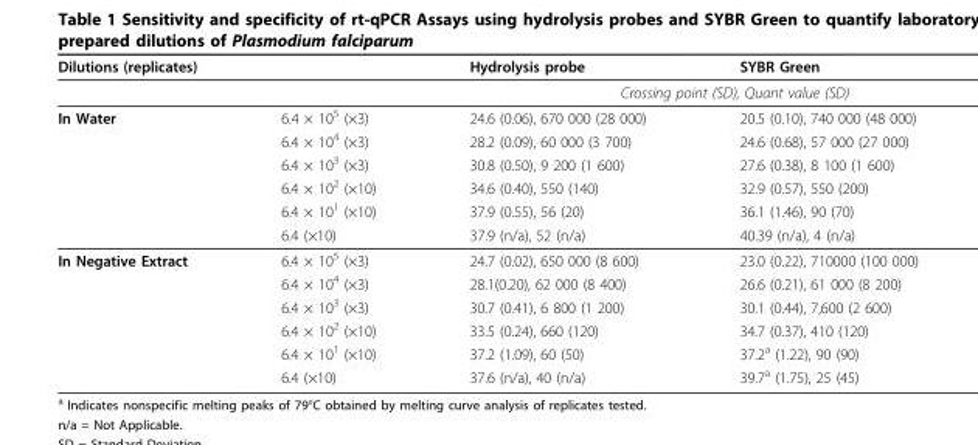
<table><thead><tr><td colspan="2">Dilutions (replicates)</td><td>Hydrolysis probe</td><td>SYBR Green</td></tr><tr><td></td><td></td><td colspan="2">Crossing point (SD), Quant value (SD)</td></tr></thead><tbody><tr><td rowspan="6">In Water</td><td>6.4 × 10<sup>5</sup> (×3)</td><td>24.6 (0.06), 670 000 (28 000)</td><td>20.5 (0.10), 740 000 (48 000)</td></tr><tr><td>6.4 × 10<sup>4</sup> (×3)</td><td>28.2 (0.09), 60 000 (3 700)</td><td>24.6 (0.68), 57 000 (27 000)</td></tr><tr><td>6.4 × 10<sup>3</sup> (×3)</td><td>30.8 (0.50), 9 200 (1 600)</td><td>27.6 (0.38), 8 100 (1 600)</td></tr><tr><td>6.4 × 10<sup>2</sup> (×10)</td><td>34.6 (0.40), 550 (140)</td><td>32.9 (0.57), 550 (200)</td></tr><tr><td>6.4 × 10<sup>1</sup> (×10)</td><td>37.9 (0.55), 56 (20)</td><td>36.1 (1.46), 90 (70)</td></tr><tr><td>6.4 (×10)</td><td>37.9 (n/a), 52 (n/a)</td><td>40.39 (n/a), 4 (n/a)</td></tr><tr><td rowspan="6">In Negative Extract</td><td>6.4 × 10<sup>5</sup> (×3)</td><td>24.7 (0.02), 650 000 (8 600)</td><td>23.0 (0.22), 710000 (100 000)</td></tr><tr><td>6.4 × 10<sup>4</sup> (×3)</td><td>28.1(0.20), 62 000 (8 400)</td><td>26.6 (0.21), 61 000 (8 200)</td></tr><tr><td>6.4 × 10<sup>3</sup> (×3)</td><td>30.7 (0.41), 6 800 (1 200)</td><td>30.1 (0.44), 7,600 (2 600)</td></tr><tr><td>6.4 × 10<sup>2</sup> (×10)</td><td>33.5 (0.24), 660 (120)</td><td>34.7 (0.37), 410 (120)</td></tr><tr><td>6.4 × 10<sup>1</sup> (×10)</td><td>37.2 (1.09), 60 (50)</td><td>37.2<sup>a</sup> (1.22), 90 (90)</td></tr><tr><td>6.4 (×10)</td><td>37.6 (n/a), 40 (n/a)</td><td>39.7<sup>a</sup> (1.75), 25 (45)</td></tr></tbody></table>